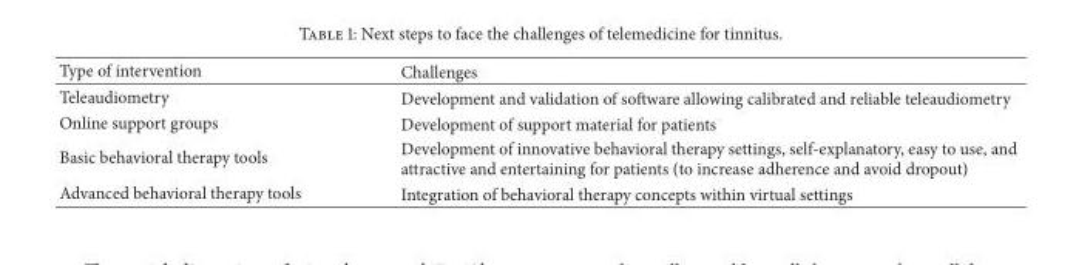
<table><thead><tr><td>Type of intervention</td><td>Challenges</td></tr></thead><tbody><tr><td>Teleaudiometry</td><td>Development and validation of software allowing calibrated and reliable teleaudiometry</td></tr><tr><td>Online support groups</td><td>Development of support material for patients</td></tr><tr><td>Basic behavioral therapy tools</td><td>Development of innovative behavioral therapy settings, self-explanatory, easy to use, and attractive and entertaining for patients (to increase adherence and avoid dropout)</td></tr><tr><td>Advanced behavioral therapy tools</td><td>Integration of behavioral therapy concepts within virtual settings</td></tr></tbody></table>